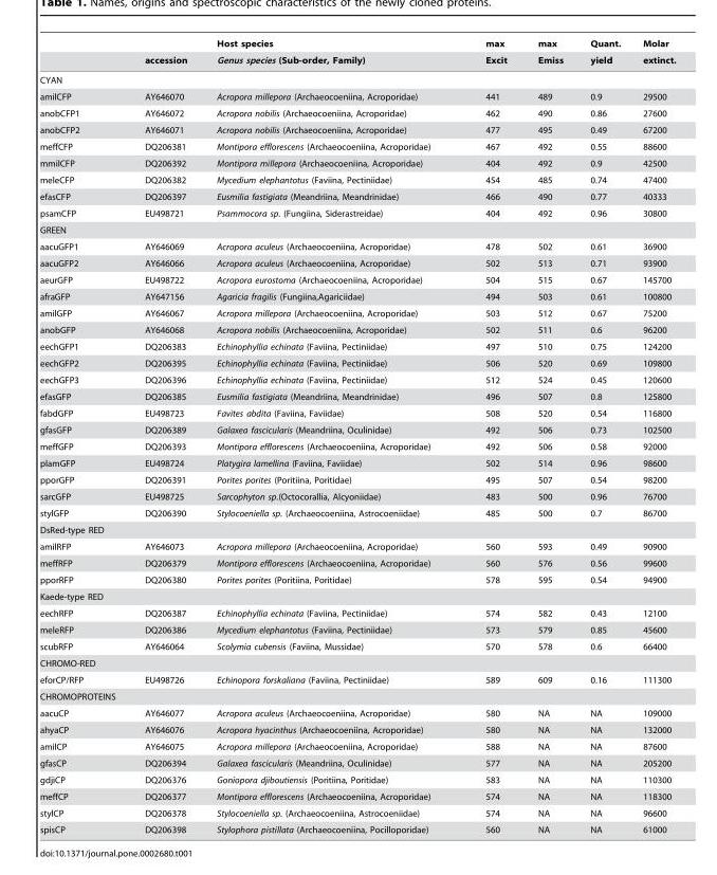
<table><thead><tr><td rowspan="2"></td><td rowspan="2">accession</td><td rowspan="2">Host species Genus species (Sub-order, Family)</td><td rowspan="2">max Excit</td><td rowspan="2">max Emiss</td><td rowspan="2">Quant. yield</td><td rowspan="2">Molar extinct.</td></tr><tr></tr></thead><tbody><tr><td colspan="7">CYAN</td></tr><tr><td>amilCFP</td><td>AY646070</td><td>Acropora millepora (Archaeocoeniina, Acroporidae)</td><td>441</td><td>489</td><td>0.9</td><td>29500</td></tr><tr><td>anobCFP1</td><td>AY646072</td><td>Acropora nobilis (Archaeocoeniina, Acroporidae)</td><td>462</td><td>490</td><td>0.86</td><td>27600</td></tr><tr><td>anobCFP2</td><td>AY646071</td><td>Acropora nobilis (Archaeocoeniina, Acroporidae)</td><td>477</td><td>495</td><td>0.49</td><td>67200</td></tr><tr><td>meffCFP</td><td>DQ206381</td><td>Montipora efflorescens (Archaeocoeniina, Acroporidae)</td><td>467</td><td>492</td><td>0.55</td><td>88600</td></tr><tr><td>mmilCFP</td><td>DQ206392</td><td>Montipora millepora (Archaeocoeniina, Acroporidae)</td><td>404</td><td>492</td><td>0.9</td><td>42500</td></tr><tr><td>meleCFP</td><td>DQ206382</td><td>Mycedium elephantotus (Faviina, Pectiniidae)</td><td>454</td><td>485</td><td>0.74</td><td>47400</td></tr><tr><td>efasCFP</td><td>DQ206397</td><td>Eusmilia fastigiata (Meandriina, Meandrinidae)</td><td>466</td><td>490</td><td>0.77</td><td>40333</td></tr><tr><td>psamCFP</td><td>EU498721</td><td>Psammocora sp. (Fungiina, Siderastreidae)</td><td>404</td><td>492</td><td>0.96</td><td>30800</td></tr><tr><td colspan="7">GREEN</td></tr><tr><td>aacuGFP1</td><td>AY646069</td><td>Acropora aculeus (Archaeocoeniina, Acroporidae)</td><td>478</td><td>502</td><td>0.61</td><td>36900</td></tr><tr><td>aacuGFP2</td><td>AY646066</td><td>Acropora aculeus (Archaeocoeniina, Acroporidae)</td><td>502</td><td>513</td><td>0.71</td><td>93900</td></tr><tr><td>aeurGFP</td><td>EU498722</td><td>Acropora eurostoma (Archaeocoeniina, Acroporidae)</td><td>504</td><td>515</td><td>0.67</td><td>145700</td></tr><tr><td>afraGFP</td><td>AY647156</td><td>Agaricia fragilis (Fungiina,Agariciidae)</td><td>494</td><td>503</td><td>0.61</td><td>100800</td></tr><tr><td>amilGFP</td><td>AY646067</td><td>Acropora millepora (Archaeocoeniina, Acroporidae)</td><td>503</td><td>512</td><td>0.67</td><td>75200</td></tr><tr><td>anobGFP</td><td>AY646068</td><td>Acropora nobilis (Archaeocoeniina, Acroporidae)</td><td>502</td><td>511</td><td>0.6</td><td>96200</td></tr><tr><td>eechGFP1</td><td>DQ206383</td><td>Echinophyllia echinata (Faviina, Pectiniidae)</td><td>497</td><td>510</td><td>0.75</td><td>124200</td></tr><tr><td>eechGFP2</td><td>DQ206395</td><td>Echinophyllia echinata (Faviina, Pectiniidae)</td><td>506</td><td>520</td><td>0.69</td><td>109800</td></tr><tr><td>eechGFP3</td><td>DQ206396</td><td>Echinophyllia echinata (Faviina, Pectiniidae)</td><td>512</td><td>524</td><td>0.45</td><td>120600</td></tr><tr><td>efasGFP</td><td>DQ206385</td><td>Eusmilia fastigiata (Meandriina, Meandrinidae)</td><td>496</td><td>507</td><td>0.8</td><td>125800</td></tr><tr><td>fabdGFP</td><td>EU498723</td><td>Favites abdita (Faviina, Faviidae)</td><td>508</td><td>520</td><td>0.54</td><td>116800</td></tr><tr><td>gfasGFP</td><td>DQ206389</td><td>Galaxea fascicularis (Meandriina, Oculinidae)</td><td>492</td><td>506</td><td>0.73</td><td>102500</td></tr><tr><td>meffGFP</td><td>DQ206393</td><td>Montipora efflorescens (Archaeocoeniina, Acroporidae)</td><td>492</td><td>506</td><td>0.58</td><td>92000</td></tr><tr><td>plamGFP</td><td>EU498724</td><td>Platygira lamellina (Faviina, Faviidae)</td><td>502</td><td>514</td><td>0.96</td><td>98600</td></tr><tr><td>pporGFP</td><td>DQ206391</td><td>Porites porites (Poritiina, Poritidae)</td><td>495</td><td>507</td><td>0.54</td><td>98200</td></tr><tr><td>sarcGFP</td><td>EU498725</td><td>Sarcophyton sp.(Octocorallia, Alcyoniidae)</td><td>483</td><td>500</td><td>0.96</td><td>76700</td></tr><tr><td>stylGFP</td><td>DQ206390</td><td>Stylocoeniella sp. (Archaeocoeniina, Astrocoeniidae)</td><td>485</td><td>500</td><td>0.7</td><td>86700</td></tr><tr><td colspan="7">DsRed-type RED</td></tr><tr><td>amilRFP</td><td>AY646073</td><td>Acropora millepora (Archaeocoeniina, Acroporidae)</td><td>560</td><td>593</td><td>0.49</td><td>90900</td></tr><tr><td>meffRFP</td><td>DQ206379</td><td>Montipora efflorescens (Archaeocoeniina, Acroporidae)</td><td>560</td><td>576</td><td>0.56</td><td>99600</td></tr><tr><td>pporRFP</td><td>DQ206380</td><td>Porites porites (Poritiina, Poritidae)</td><td>578</td><td>595</td><td>0.54</td><td>94900</td></tr><tr><td colspan="7">Kaede-type RED</td></tr><tr><td>eechRFP</td><td>DQ206387</td><td>Echinophyllia echinata (Faviina, Pectiniidae)</td><td>574</td><td>582</td><td>0.43</td><td>12100</td></tr><tr><td>meleRFP</td><td>DQ206386</td><td>Mycedium elephantotus (Faviina, Pectiniidae)</td><td>573</td><td>579</td><td>0.85</td><td>45600</td></tr><tr><td>scubRFP</td><td>AY646064</td><td>Scolymia cubensis (Faviina, Mussidae)</td><td>570</td><td>578</td><td>0.6</td><td>66400</td></tr><tr><td colspan="7">CHROMO-RED</td></tr><tr><td>eforCP/RFP</td><td>EU498726</td><td>Echinopora forskaliana (Faviina, Pectiniidae)</td><td>589</td><td>609</td><td>0.16</td><td>111300</td></tr><tr><td colspan="7">CHROMOPROTEINS</td></tr><tr><td>aacuCP</td><td>AY646077</td><td>Acropora aculeus (Archaeocoeniina, Acroporidae)</td><td>580</td><td>NA</td><td>NA</td><td>109000</td></tr><tr><td>ahyaCP</td><td>AY646076</td><td>Acropora hyacinthus (Archaeocoeniina, Acroporidae)</td><td>580</td><td>NA</td><td>NA</td><td>132000</td></tr><tr><td>amilCP</td><td>AY646075</td><td>Acropora millepora (Archaeocoeniina, Acroporidae)</td><td>588</td><td>NA</td><td>NA</td><td>87600</td></tr><tr><td>gfasCP</td><td>DQ206394</td><td>Galaxea fascicularis (Meandriina, Oculinidae)</td><td>577</td><td>NA</td><td>NA</td><td>205200</td></tr><tr><td>gdjiCP</td><td>DQ206376</td><td>Goniopora djiboutiensis (Poritiina, Poritidae)</td><td>583</td><td>NA</td><td>NA</td><td>110300</td></tr><tr><td>meffCP</td><td>DQ206377</td><td>Montipora efflorescens (Archaeocoeniina, Acroporidae)</td><td>574</td><td>NA</td><td>NA</td><td>118300</td></tr><tr><td>stylCP</td><td>DQ206378</td><td>Stylocoeniella sp. (Archaeocoeniina, Astrocoeniidae)</td><td>574</td><td>NA</td><td>NA</td><td>96600</td></tr><tr><td>spisCP</td><td>DQ206398</td><td>Stylophora pistillata (Archaeocoeniina, Pocilloporidae)</td><td>560</td><td>NA</td><td>NA</td><td>61000</td></tr></tbody></table>